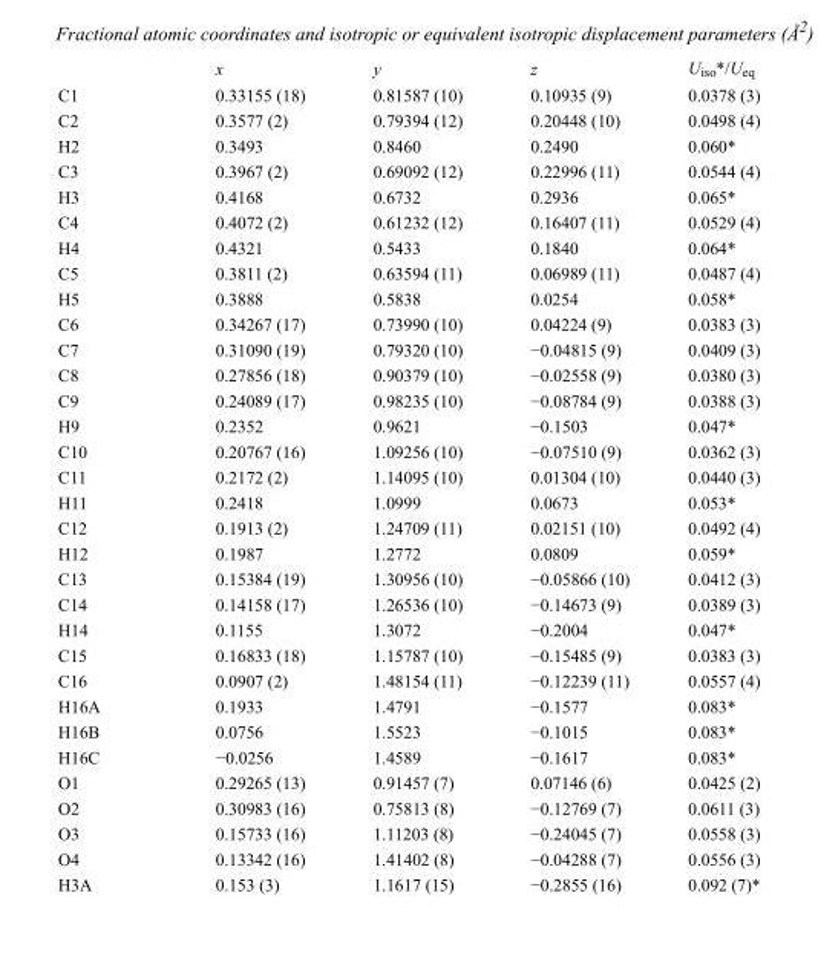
<table><thead><tr><td></td><td>x</td><td>y</td><td>z</td><td>U<sub>iso</sub>*/U<sub>eq</sub></td></tr></thead><tbody><tr><td>C1</td><td>0.33155 (18)</td><td>0.81587 (10)</td><td>0.10935 (9)</td><td>0.0378 (3)</td></tr><tr><td>C2</td><td>0.3577 (2)</td><td>0.79394 (12)</td><td>0.20448 (10)</td><td>0.0498 (4)</td></tr><tr><td>H2</td><td>0.3493</td><td>0.8460</td><td>0.2490</td><td>0.060*</td></tr><tr><td>C3</td><td>0.3967 (2)</td><td>0.69092 (12)</td><td>0.22996 (11)</td><td>0.0544 (4)</td></tr><tr><td>H3</td><td>0.4168</td><td>0.6732</td><td>0.2936</td><td>0.065*</td></tr><tr><td>C4</td><td>0.4072 (2)</td><td>0.61232 (12)</td><td>0.16407 (11)</td><td>0.0529 (4)</td></tr><tr><td>H4</td><td>0.4321</td><td>0.5433</td><td>0.1840</td><td>0.064*</td></tr><tr><td>C5</td><td>0.3811 (2)</td><td>0.63594 (11)</td><td>0.06989 (11)</td><td>0.0487 (4)</td></tr><tr><td>H5</td><td>0.3888</td><td>0.5838</td><td>0.0254</td><td>0.058*</td></tr><tr><td>C6</td><td>0.34267 (17)</td><td>0.73990 (10)</td><td>0.04224 (9)</td><td>0.0383 (3)</td></tr><tr><td>C7</td><td>0.31090 (19)</td><td>0.79320 (10)</td><td>−0.04815 (9)</td><td>0.0409 (3)</td></tr><tr><td>C8</td><td>0.27856 (18)</td><td>0.90379 (10)</td><td>−0.02558 (9)</td><td>0.0380 (3)</td></tr><tr><td>C9</td><td>0.24089 (17)</td><td>0.98235 (10)</td><td>−0.08784 (9)</td><td>0.0388 (3)</td></tr><tr><td>H9</td><td>0.2352</td><td>0.9621</td><td>−0.1503</td><td>0.047*</td></tr><tr><td>C10</td><td>0.20767 (16)</td><td>1.09256 (10)</td><td>−0.07510 (9)</td><td>0.0362 (3)</td></tr><tr><td>C11</td><td>0.2172 (2)</td><td>1.14095 (10)</td><td>0.01304 (10)</td><td>0.0440 (3)</td></tr><tr><td>H11</td><td>0.2418</td><td>1.0999</td><td>0.0673</td><td>0.053*</td></tr><tr><td>C12</td><td>0.1913 (2)</td><td>1.24709 (11)</td><td>0.02151 (10)</td><td>0.0492 (4)</td></tr><tr><td>H12</td><td>0.1987</td><td>1.2772</td><td>0.0809</td><td>0.059*</td></tr><tr><td>C13</td><td>0.15384 (19)</td><td>1.30956 (10)</td><td>−0.05866 (10)</td><td>0.0412 (3)</td></tr><tr><td>C14</td><td>0.14158 (17)</td><td>1.26536 (10)</td><td>−0.14673 (9)</td><td>0.0389 (3)</td></tr><tr><td>H14</td><td>0.1155</td><td>1.3072</td><td>−0.2004</td><td>0.047*</td></tr><tr><td>C15</td><td>0.16833 (18)</td><td>1.15787 (10)</td><td>−0.15485 (9)</td><td>0.0383 (3)</td></tr><tr><td>C16</td><td>0.0907 (2)</td><td>1.48154 (11)</td><td>−0.12239 (11)</td><td>0.0557 (4)</td></tr><tr><td>H16A</td><td>0.1933</td><td>1.4791</td><td>−0.1577</td><td>0.083*</td></tr><tr><td>H16B</td><td>0.0756</td><td>1.5523</td><td>−0.1015</td><td>0.083*</td></tr><tr><td>H16C</td><td>−0.0256</td><td>1.4589</td><td>−0.1617</td><td>0.083*</td></tr><tr><td>O1</td><td>0.29265 (13)</td><td>0.91457 (7)</td><td>0.07146 (6)</td><td>0.0425 (2)</td></tr><tr><td>O2</td><td>0.30983 (16)</td><td>0.75813 (8)</td><td>−0.12769 (7)</td><td>0.0611 (3)</td></tr><tr><td>O3</td><td>0.15733 (16)</td><td>1.11203 (8)</td><td>−0.24045 (7)</td><td>0.0558 (3)</td></tr><tr><td>O4</td><td>0.13342 (16)</td><td>1.41402 (8)</td><td>−0.04288 (7)</td><td>0.0556 (3)</td></tr><tr><td>H3A</td><td>0.153 (3)</td><td>1.1617 (15)</td><td>−0.2855 (16)</td><td>0.092 (7)*</td></tr></tbody></table>